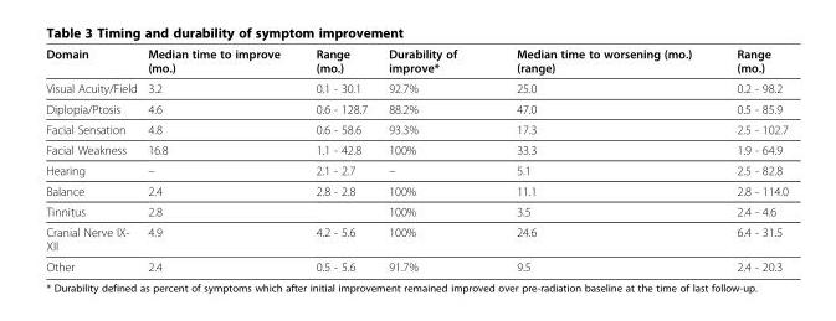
<table><thead><tr><td>Domain</td><td>Median time to improve (mo.)</td><td>Range (mo.)</td><td>Durability of improve*</td><td>Median time to worsening (mo.) (range)</td><td>Range (mo.)</td></tr></thead><tbody><tr><td>Visual Acuity/Field</td><td>3.2</td><td>0.1 - 30.1</td><td>92.7%</td><td>25.0</td><td>0.2 - 98.2</td></tr><tr><td>Diplopia/Ptosis</td><td>4.6</td><td>0.6 - 128.7</td><td>88.2%</td><td>47.0</td><td>0.5 - 85.9</td></tr><tr><td>Facial Sensation</td><td>4.8</td><td>0.6 - 58.6</td><td>93.3%</td><td>17.3</td><td>2.5 - 102.7</td></tr><tr><td>Facial Weakness</td><td>16.8</td><td>1.1 - 42.8</td><td>100%</td><td>33.3</td><td>1.9 - 64.9</td></tr><tr><td>Hearing</td><td>–</td><td>2.1 - 2.7</td><td>–</td><td>5.1</td><td>2.5 - 82.8</td></tr><tr><td>Balance</td><td>2.4</td><td>2.8 - 2.8</td><td>100%</td><td>11.1</td><td>2.8 - 114.0</td></tr><tr><td>Tinnitus</td><td>2.8</td><td></td><td>100%</td><td>3.5</td><td>2.4 - 4.6</td></tr><tr><td>Cranial Nerve IX- XII</td><td>4.9</td><td>4.2 - 5.6</td><td>100%</td><td>24.6</td><td>6.4 - 31.5</td></tr><tr><td>Other</td><td>2.4</td><td>0.5 - 5.6</td><td>91.7%</td><td>9.5</td><td>2.4 - 20.3</td></tr></tbody></table>